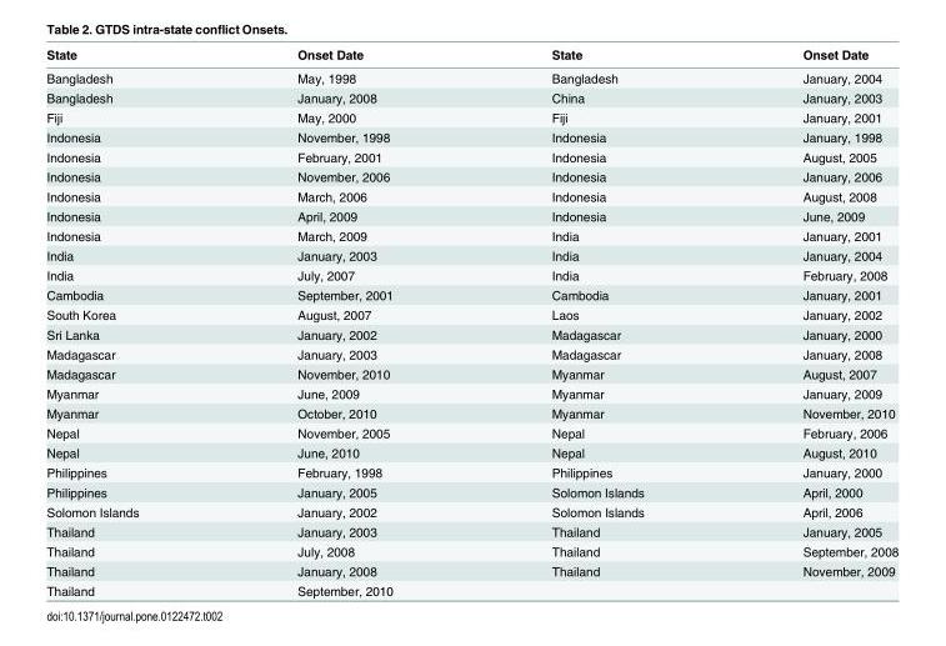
<table><thead><tr><td>State</td><td>Onset Date</td><td>State</td><td>Onset Date</td></tr></thead><tbody><tr><td>Bangladesh</td><td>May, 1998</td><td>Bangladesh</td><td>January, 2004</td></tr><tr><td>Bangladesh</td><td>January, 2008</td><td>China</td><td>January, 2003</td></tr><tr><td>Fiji</td><td>May, 2000</td><td>Fiji</td><td>January, 2001</td></tr><tr><td>Indonesia</td><td>November, 1998</td><td>Indonesia</td><td>January, 1998</td></tr><tr><td>Indonesia</td><td>February, 2001</td><td>Indonesia</td><td>August, 2005</td></tr><tr><td>Indonesia</td><td>November, 2006</td><td>Indonesia</td><td>January, 2006</td></tr><tr><td>Indonesia</td><td>March, 2006</td><td>Indonesia</td><td>August, 2008</td></tr><tr><td>Indonesia</td><td>April, 2009</td><td>Indonesia</td><td>June, 2009</td></tr><tr><td>Indonesia</td><td>March, 2009</td><td>India</td><td>January, 2001</td></tr><tr><td>India</td><td>January, 2003</td><td>India</td><td>January, 2004</td></tr><tr><td>India</td><td>July, 2007</td><td>India</td><td>February, 2008</td></tr><tr><td>Cambodia</td><td>September, 2001</td><td>Cambodia</td><td>January, 2001</td></tr><tr><td>South Korea</td><td>August, 2007</td><td>Laos</td><td>January, 2002</td></tr><tr><td>Sri Lanka</td><td>January, 2002</td><td>Madagascar</td><td>January, 2000</td></tr><tr><td>Madagascar</td><td>January, 2003</td><td>Madagascar</td><td>January, 2008</td></tr><tr><td>Madagascar</td><td>November, 2010</td><td>Myanmar</td><td>August, 2007</td></tr><tr><td>Myanmar</td><td>June, 2009</td><td>Myanmar</td><td>January, 2009</td></tr><tr><td>Myanmar</td><td>October, 2010</td><td>Myanmar</td><td>November, 2010</td></tr><tr><td>Nepal</td><td>November, 2005</td><td>Nepal</td><td>February, 2006</td></tr><tr><td>Nepal</td><td>June, 2010</td><td>Nepal</td><td>August, 2010</td></tr><tr><td>Philippines</td><td>February, 1998</td><td>Philippines</td><td>January, 2000</td></tr><tr><td>Philippines</td><td>January, 2005</td><td>Solomon Islands</td><td>April, 2000</td></tr><tr><td>Solomon Islands</td><td>January, 2002</td><td>Solomon Islands</td><td>April, 2006</td></tr><tr><td>Thailand</td><td>January, 2003</td><td>Thailand</td><td>January, 2005</td></tr><tr><td>Thailand</td><td>July, 2008</td><td>Thailand</td><td>September, 2008</td></tr><tr><td>Thailand</td><td>January, 2008</td><td>Thailand</td><td>November, 2009</td></tr><tr><td>Thailand</td><td>September, 2010</td><td></td><td></td></tr></tbody></table>